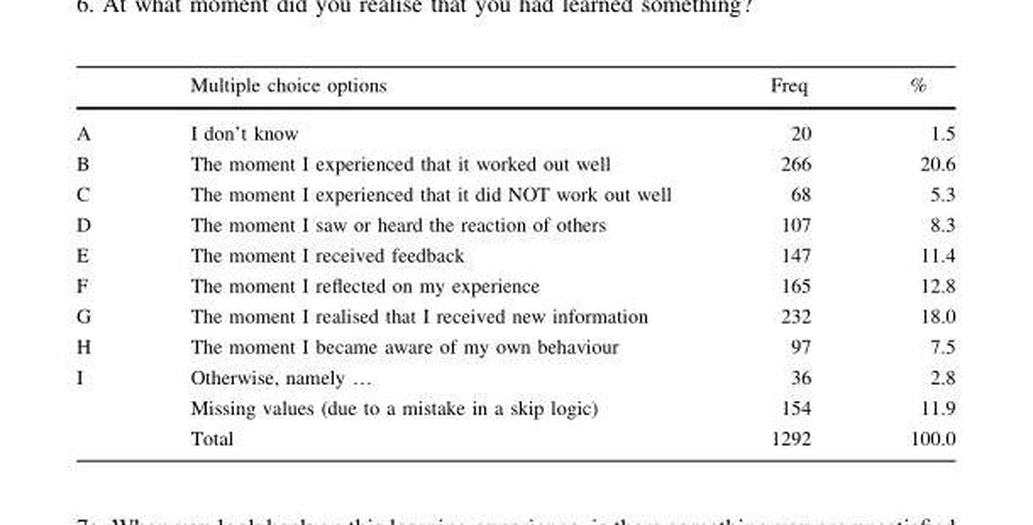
<table><thead><tr><td></td><td>Multiple choice options</td><td>Freq</td><td>%</td></tr></thead><tbody><tr><td>A</td><td>I don’t know</td><td>20</td><td>1.5</td></tr><tr><td>B</td><td>The moment I experienced that it worked out well</td><td>266</td><td>20.6</td></tr><tr><td>C</td><td>The moment I experienced that it did NOT work out well</td><td>68</td><td>5.3</td></tr><tr><td>D</td><td>The moment I saw or heard the reaction of others</td><td>107</td><td>8.3</td></tr><tr><td>E</td><td>The moment I received feedback</td><td>147</td><td>11.4</td></tr><tr><td>F</td><td>The moment I reflected on my experience</td><td>165</td><td>12.8</td></tr><tr><td>G</td><td>The moment I realised that I received new information</td><td>232</td><td>18.0</td></tr><tr><td>H</td><td>The moment I became aware of my own behaviour</td><td>97</td><td>7.5</td></tr><tr><td rowspan="3">I</td><td>Otherwise, namely …</td><td>36</td><td>2.8</td></tr><tr><td>Missing values (due to a mistake in a skip logic)</td><td>154</td><td>11.9</td></tr><tr><td>Total</td><td>1292</td><td>100.0</td></tr></tbody></table>